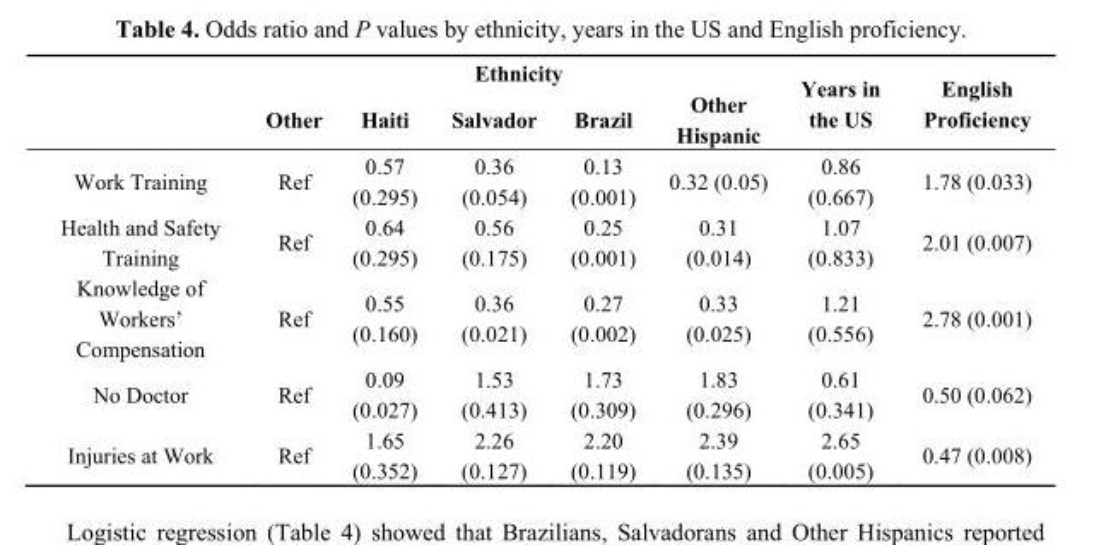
<table><thead><tr><td rowspan="2"></td><td colspan="5">Ethnicity</td><td rowspan="2">Years in the US</td><td rowspan="2">English Proficiency</td></tr><tr><td>Other</td><td>Haiti</td><td>Salvador</td><td>Brazil</td><td>Other Hispanic</td></tr></thead><tbody><tr><td>Work Training</td><td>Ref</td><td>0.57 (0.295)</td><td>0.36 (0.054)</td><td>0.13 (0.001)</td><td>0.32 (0.05)</td><td>0.86 (0.667)</td><td>1.78 (0.033)</td></tr><tr><td>Health and Safety Training</td><td>Ref</td><td>0.64 (0.295)</td><td>0.56 (0.175)</td><td>0.25 (0.001)</td><td>0.31 (0.014)</td><td>1.07 (0.833)</td><td>2.01 (0.007)</td></tr><tr><td>Knowledge of Workers’ Compensation</td><td>Ref</td><td>0.55 (0.160)</td><td>0.36 (0.021)</td><td>0.27 (0.002)</td><td>0.33 (0.025)</td><td>1.21 (0.556)</td><td>2.78 (0.001)</td></tr><tr><td>No Doctor</td><td>Ref</td><td>0.09 (0.027)</td><td>1.53 (0.413)</td><td>1.73 (0.309)</td><td>1.83 (0.296)</td><td>0.61 (0.341)</td><td>0.50 (0.062)</td></tr><tr><td>Injuries at Work</td><td>Ref</td><td>1.65 (0.352)</td><td>2.26 (0.127)</td><td>2.20 (0.119)</td><td>2.39 (0.135)</td><td>2.65 (0.005)</td><td>0.47 (0.008)</td></tr></tbody></table>